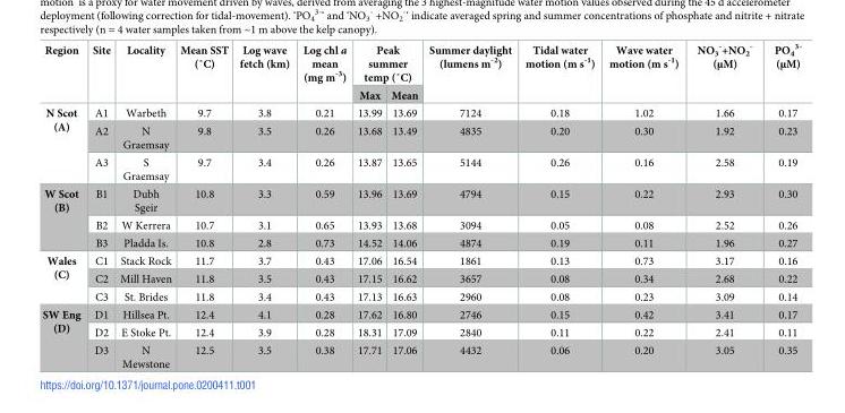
<table><thead><tr><td rowspan="2">Region</td><td rowspan="2">Site</td><td rowspan="2">Locality</td><td rowspan="2">Mean SST (˚C)</td><td rowspan="2">Log wave fetch (km)</td><td rowspan="2">Log chl a mean (mg m<sup>-3</sup>)</td><td colspan="2">Peak summer temp (˚C)</td><td rowspan="2">Summer daylight (lumens m<sup>-2</sup>)</td><td rowspan="2">Tidal water motion (m s<sup>-1</sup>)</td><td rowspan="2">Wave water motion (m s<sup>-1</sup>)</td><td rowspan="2">NO<sub>3</sub> <sup>-</sup>+NO<sub>2</sub> <sup>-</sup> (μM)</td><td rowspan="2">PO<sub>4</sub> <sup>3-</sup> (μM)</td></tr><tr><td>Max</td><td>Mean</td></tr></thead><tbody><tr><td rowspan="3">N Scot (A)</td><td>A1</td><td>Warbeth</td><td>9.7</td><td>3.8</td><td>0.21</td><td>13.99</td><td>13.69</td><td>7124</td><td>0.18</td><td>1.02</td><td>1.66</td><td>0.17</td></tr><tr><td>A2</td><td>N Graemsay</td><td>9.8</td><td>3.5</td><td>0.26</td><td>13.68</td><td>13.49</td><td>4835</td><td>0.20</td><td>0.30</td><td>1.92</td><td>0.23</td></tr><tr><td>A3</td><td>S Graemsay</td><td>9.7</td><td>3.4</td><td>0.26</td><td>13.87</td><td>13.65</td><td>5144</td><td>0.26</td><td>0.16</td><td>2.58</td><td>0.19</td></tr><tr><td rowspan="3">W Scot (B)</td><td>B1</td><td>Dubh Sgeir</td><td>10.8</td><td>3.3</td><td>0.59</td><td>13.96</td><td>13.69</td><td>4794</td><td>0.15</td><td>0.22</td><td>2.93</td><td>0.30</td></tr><tr><td>B2</td><td>W Kerrera</td><td>10.7</td><td>3.1</td><td>0.65</td><td>13.93</td><td>13.68</td><td>3094</td><td>0.05</td><td>0.08</td><td>2.52</td><td>0.26</td></tr><tr><td>B3</td><td>Pladda Is.</td><td>10.8</td><td>2.8</td><td>0.73</td><td>14.52</td><td>14.06</td><td>4874</td><td>0.19</td><td>0.11</td><td>1.96</td><td>0.27</td></tr><tr><td rowspan="3">Wales (C)</td><td>C1</td><td>Stack Rock</td><td>11.7</td><td>3.7</td><td>0.43</td><td>17.06</td><td>16.54</td><td>1861</td><td>0.13</td><td>0.73</td><td>3.17</td><td>0.16</td></tr><tr><td>C2</td><td>Mill Haven</td><td>11.8</td><td>3.5</td><td>0.43</td><td>17.15</td><td>16.62</td><td>3657</td><td>0.08</td><td>0.34</td><td>2.68</td><td>0.22</td></tr><tr><td>C3</td><td>St. Brides</td><td>11.8</td><td>3.4</td><td>0.43</td><td>17.13</td><td>16.63</td><td>2960</td><td>0.08</td><td>0.23</td><td>3.09</td><td>0.14</td></tr><tr><td rowspan="3">SW Eng (D)</td><td>D1</td><td>Hillsea Pt.</td><td>12.4</td><td>4.1</td><td>0.28</td><td>17.62</td><td>16.80</td><td>2746</td><td>0.15</td><td>0.42</td><td>3.41</td><td>0.17</td></tr><tr><td>D2</td><td>E Stoke Pt.</td><td>12.4</td><td>3.9</td><td>0.28</td><td>18.31</td><td>17.09</td><td>2840</td><td>0.11</td><td>0.22</td><td>2.41</td><td>0.11</td></tr><tr><td>D3</td><td>N Mewstone</td><td>12.5</td><td>3.5</td><td>0.38</td><td>17.71</td><td>17.06</td><td>4432</td><td>0.06</td><td>0.20</td><td>3.05</td><td>0.35</td></tr></tbody></table>